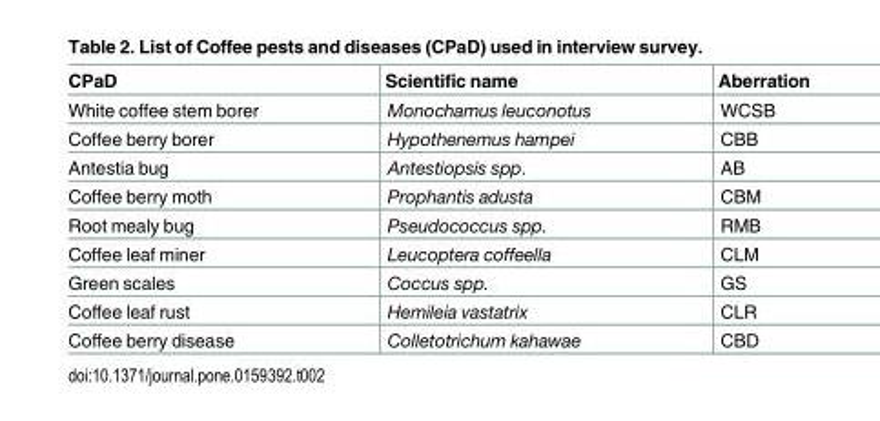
<table><thead><tr><td>CPaD</td><td>Scientific name</td><td>Aberration</td></tr></thead><tbody><tr><td>White coffee stem borer</td><td>Monochamus leuconotus</td><td>WCSB</td></tr><tr><td>Coffee berry borer</td><td>Hypothenemus hampei</td><td>CBB</td></tr><tr><td>Antestia bug</td><td>Antestiopsis spp.</td><td>AB</td></tr><tr><td>Coffee berry moth</td><td>Prophantis adusta</td><td>CBM</td></tr><tr><td>Root mealy bug</td><td>Pseudococcus spp.</td><td>RMB</td></tr><tr><td>Coffee leaf miner</td><td>Leucoptera coffeella</td><td>CLM</td></tr><tr><td>Green scales</td><td>Coccus spp.</td><td>GS</td></tr><tr><td>Coffee leaf rust</td><td>Hemileia vastatrix</td><td>CLR</td></tr><tr><td>Coffee berry disease</td><td>Colletotrichum kahawae</td><td>CBD</td></tr></tbody></table>